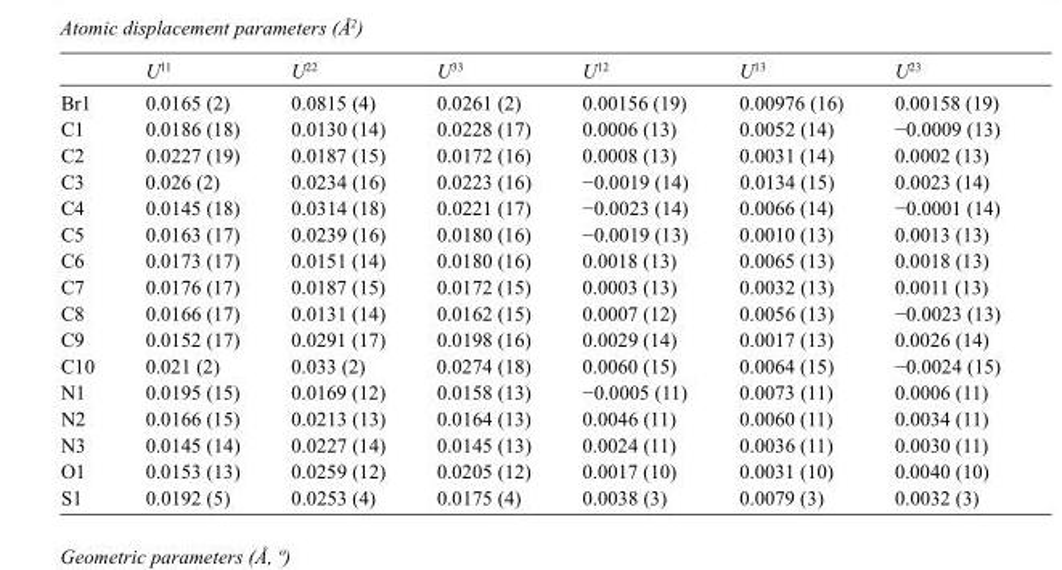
<table><thead><tr><td></td><td>U<sup>11</sup></td><td>U<sup>22</sup></td><td>U<sup>33</sup></td><td>U<sup>12</sup></td><td>U<sup>13</sup></td><td>U<sup>23</sup></td></tr></thead><tbody><tr><td>Br1</td><td>0.0165 (2)</td><td>0.0815 (4)</td><td>0.0261 (2)</td><td>0.00156 (19)</td><td>0.00976 (16)</td><td>0.00158 (19)</td></tr><tr><td>C1</td><td>0.0186 (18)</td><td>0.0130 (14)</td><td>0.0228 (17)</td><td>0.0006 (13)</td><td>0.0052 (14)</td><td>−0.0009 (13)</td></tr><tr><td>C2</td><td>0.0227 (19)</td><td>0.0187 (15)</td><td>0.0172 (16)</td><td>0.0008 (13)</td><td>0.0031 (14)</td><td>0.0002 (13)</td></tr><tr><td>C3</td><td>0.026 (2)</td><td>0.0234 (16)</td><td>0.0223 (16)</td><td>−0.0019 (14)</td><td>0.0134 (15)</td><td>0.0023 (14)</td></tr><tr><td>C4</td><td>0.0145 (18)</td><td>0.0314 (18)</td><td>0.0221 (17)</td><td>−0.0023 (14)</td><td>0.0066 (14)</td><td>−0.0001 (14)</td></tr><tr><td>C5</td><td>0.0163 (17)</td><td>0.0239 (16)</td><td>0.0180 (16)</td><td>−0.0019 (13)</td><td>0.0010 (13)</td><td>0.0013 (13)</td></tr><tr><td>C6</td><td>0.0173 (17)</td><td>0.0151 (14)</td><td>0.0180 (16)</td><td>0.0018 (13)</td><td>0.0065 (13)</td><td>0.0018 (13)</td></tr><tr><td>C7</td><td>0.0176 (17)</td><td>0.0187 (15)</td><td>0.0172 (15)</td><td>0.0003 (13)</td><td>0.0032 (13)</td><td>0.0011 (13)</td></tr><tr><td>C8</td><td>0.0166 (17)</td><td>0.0131 (14)</td><td>0.0162 (15)</td><td>0.0007 (12)</td><td>0.0056 (13)</td><td>−0.0023 (13)</td></tr><tr><td>C9</td><td>0.0152 (17)</td><td>0.0291 (17)</td><td>0.0198 (16)</td><td>0.0029 (14)</td><td>0.0017 (13)</td><td>0.0026 (14)</td></tr><tr><td>C10</td><td>0.021 (2)</td><td>0.033 (2)</td><td>0.0274 (18)</td><td>0.0060 (15)</td><td>0.0064 (15)</td><td>−0.0024 (15)</td></tr><tr><td>N1</td><td>0.0195 (15)</td><td>0.0169 (12)</td><td>0.0158 (13)</td><td>−0.0005 (11)</td><td>0.0073 (11)</td><td>0.0006 (11)</td></tr><tr><td>N2</td><td>0.0166 (15)</td><td>0.0213 (13)</td><td>0.0164 (13)</td><td>0.0046 (11)</td><td>0.0060 (11)</td><td>0.0034 (11)</td></tr><tr><td>N3</td><td>0.0145 (14)</td><td>0.0227 (14)</td><td>0.0145 (13)</td><td>0.0024 (11)</td><td>0.0036 (11)</td><td>0.0030 (11)</td></tr><tr><td>O1</td><td>0.0153 (13)</td><td>0.0259 (12)</td><td>0.0205 (12)</td><td>0.0017 (10)</td><td>0.0031 (10)</td><td>0.0040 (10)</td></tr><tr><td>S1</td><td>0.0192 (5)</td><td>0.0253 (4)</td><td>0.0175 (4)</td><td>0.0038 (3)</td><td>0.0079 (3)</td><td>0.0032 (3)</td></tr></tbody></table>